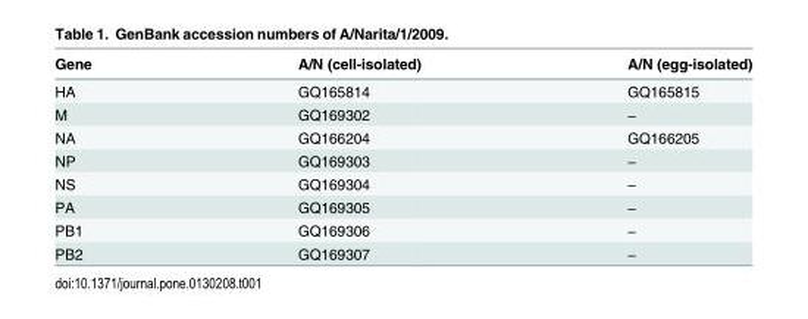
<table><thead><tr><td>Gene</td><td>A/N (cell-isolated)</td><td>A/N (egg-isolated)</td></tr></thead><tbody><tr><td>HA</td><td>GQ165814</td><td>GQ165815</td></tr><tr><td>M</td><td>GQ169302</td><td>―</td></tr><tr><td>NA</td><td>GQ166204</td><td>GQ166205</td></tr><tr><td>NP</td><td>GQ169303</td><td>―</td></tr><tr><td>NS</td><td>GQ169304</td><td>―</td></tr><tr><td>PA</td><td>GQ169305</td><td>―</td></tr><tr><td>PB1</td><td>GQ169306</td><td>―</td></tr><tr><td>PB2</td><td>GQ169307</td><td>―</td></tr></tbody></table>